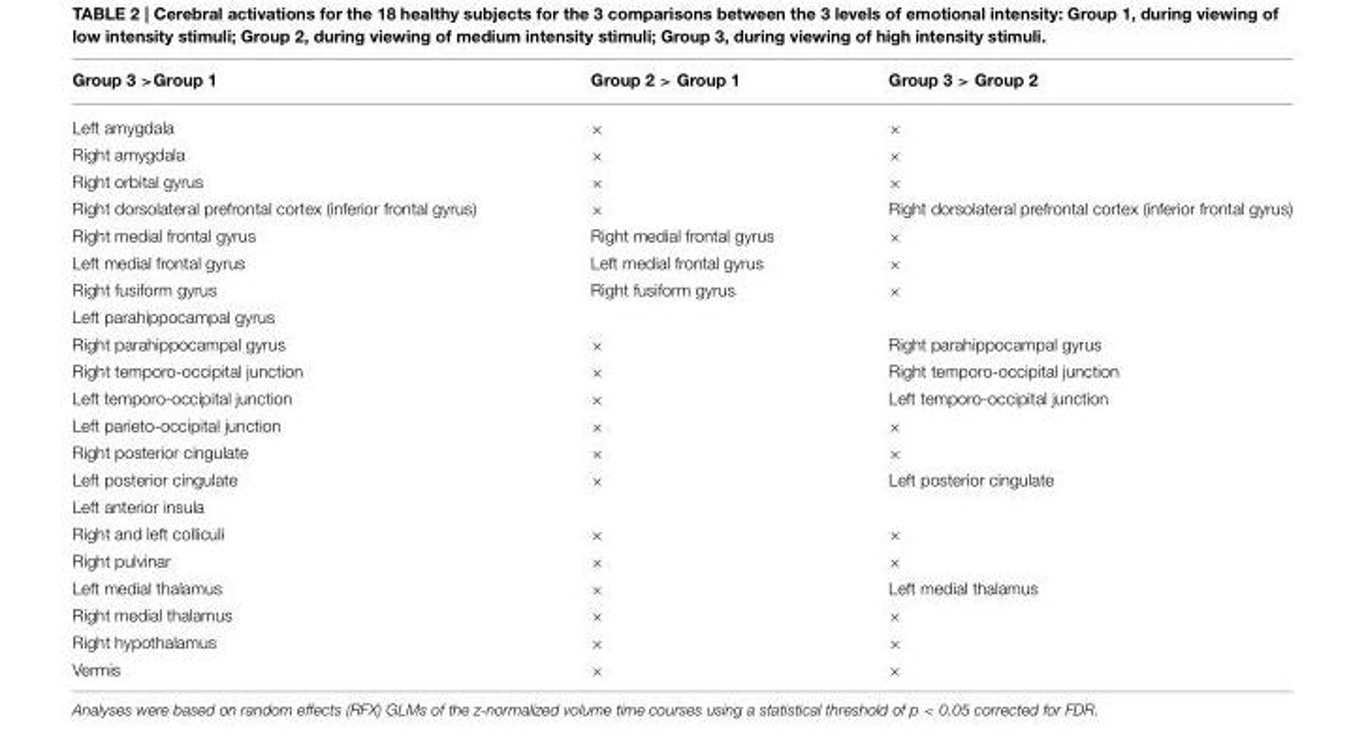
<table><thead><tr><td>Group 3 &gt;Group 1</td><td>Group 2 &gt; Group 1</td><td>Group 3 &gt; Group 2</td></tr></thead><tbody><tr><td>Left amygdala</td><td>×</td><td>×</td></tr><tr><td>Right amygdala</td><td>×</td><td>×</td></tr><tr><td>Right orbital gyrus</td><td>×</td><td>×</td></tr><tr><td>Right dorsolateral prefrontal cortex (inferior frontal gyrus)</td><td>×</td><td>Right dorsolateral prefrontal cortex (inferior frontal gyrus)</td></tr><tr><td>Right medial frontal gyrus</td><td>Right medial frontal gyrus</td><td>×</td></tr><tr><td>Left medial frontal gyrus</td><td>Left medial frontal gyrus</td><td>×</td></tr><tr><td>Right fusiform gyrus</td><td>Right fusiform gyrus</td><td>×</td></tr><tr><td colspan="3">Left parahippocampal gyrus</td></tr><tr><td>Right parahippocampal gyrus</td><td>×</td><td>Right parahippocampal gyrus</td></tr><tr><td>Right temporo-occipital junction</td><td>×</td><td>Right temporo-occipital junction</td></tr><tr><td>Left temporo-occipital junction</td><td>×</td><td>Left temporo-occipital junction</td></tr><tr><td>Left parieto-occipital junction</td><td>×</td><td>×</td></tr><tr><td>Right posterior cingulate</td><td>×</td><td>×</td></tr><tr><td>Left posterior cingulate</td><td>×</td><td>Left posterior cingulate</td></tr><tr><td colspan="3">Left anterior insula</td></tr><tr><td>Right and left colliculi</td><td>×</td><td>×</td></tr><tr><td>Right pulvinar</td><td>×</td><td>×</td></tr><tr><td>Left medial thalamus</td><td>×</td><td>Left medial thalamus</td></tr><tr><td>Right medial thalamus</td><td>×</td><td>×</td></tr><tr><td>Right hypothalamus</td><td>×</td><td>×</td></tr><tr><td>Vermis</td><td>×</td><td>×</td></tr></tbody></table>